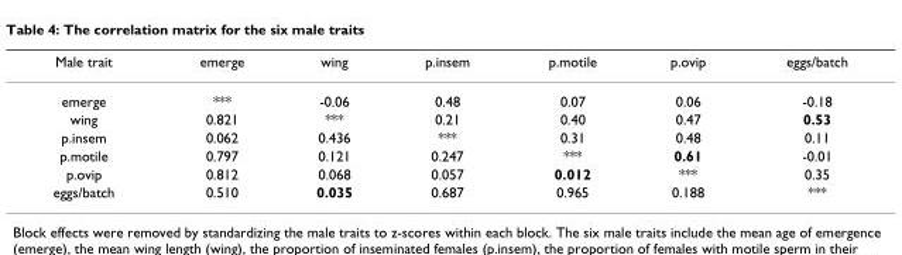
<table><thead><tr><td>Male trait</td><td>emerge</td><td>wing</td><td>p.insem</td><td>p.motile</td><td>p.ovip</td><td>eggs/batch</td></tr></thead><tbody><tr><td>emerge</td><td>***</td><td>-0.06</td><td>0.48</td><td>0.07</td><td>0.06</td><td>-0.18</td></tr><tr><td>wing</td><td>0.821</td><td>***</td><td>0.21</td><td>0.40</td><td>0.47</td><td>0.53</td></tr><tr><td>p.insem</td><td>0.062</td><td>0.436</td><td>***</td><td>0.31</td><td>0.48</td><td>0.11</td></tr><tr><td>p.motile</td><td>0.797</td><td>0.121</td><td>0.247</td><td>***</td><td>0.61</td><td>-0.01</td></tr><tr><td>p.ovip</td><td>0.812</td><td>0.068</td><td>0.057</td><td>0.012</td><td>***</td><td>0.35</td></tr><tr><td>eggs/batch</td><td>0.510</td><td>0.035</td><td>0.687</td><td>0.965</td><td>0.188</td><td>***</td></tr></tbody></table>